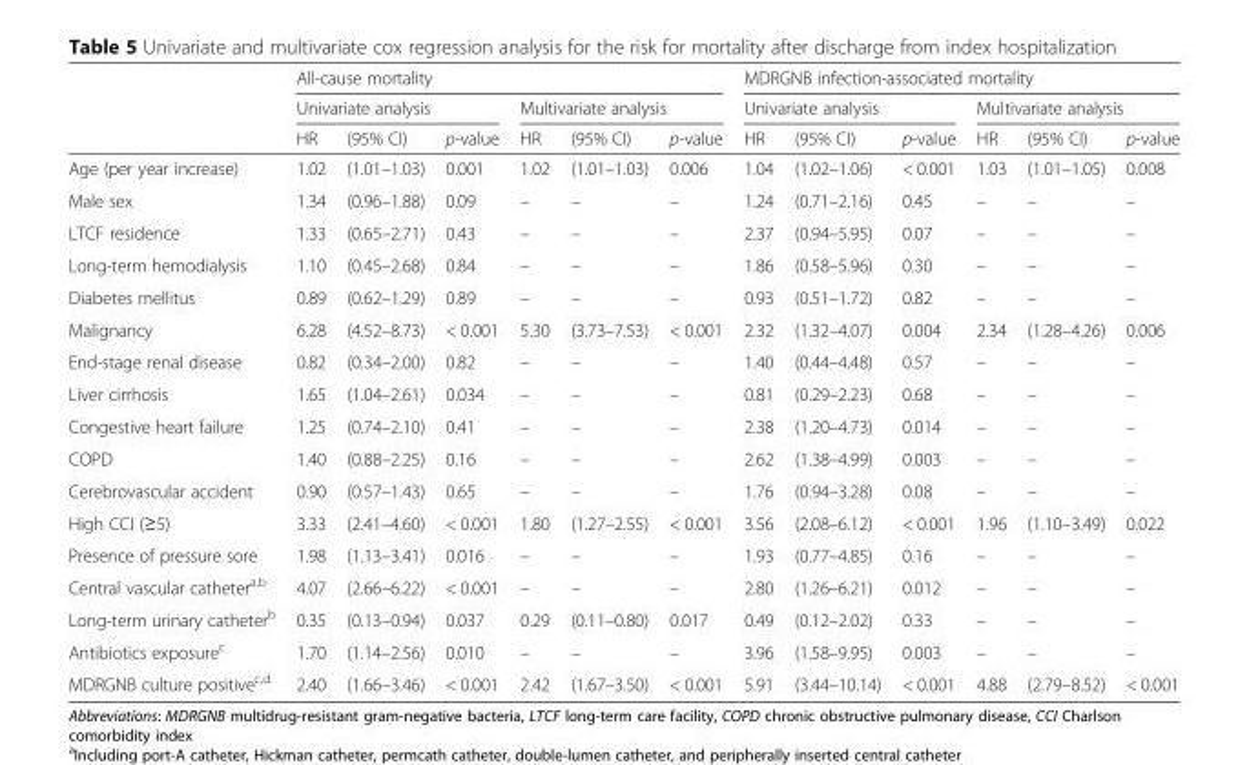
<table><thead><tr><td rowspan="3"></td><td colspan="6">All-cause mortality</td><td colspan="6">MDRGNB infection-associated mortality</td></tr><tr><td colspan="3">Univariate analysis</td><td colspan="3">Multivariate analysis</td><td colspan="3">Univariate analysis</td><td colspan="3">Multivariate analysis</td></tr><tr><td>HR</td><td>(95% CI)</td><td>p-value</td><td>HR</td><td>(95% CI)</td><td>p-value</td><td>HR</td><td>(95% CI)</td><td>p-value</td><td>HR</td><td>(95% CI)</td><td>p-value</td></tr></thead><tbody><tr><td>Age (per year increase)</td><td>1.02</td><td>(1.01–1.03)</td><td>0.001</td><td>1.02</td><td>(1.01–1.03)</td><td>0.006</td><td>1.04</td><td>(1.02–1.06)</td><td>&lt; 0.001</td><td>1.03</td><td>(1.01–1.05)</td><td>0.008</td></tr><tr><td>Male sex</td><td>1.34</td><td>(0.96–1.88)</td><td>0.09</td><td>–</td><td>–</td><td>–</td><td>1.24</td><td>(0.71–2.16)</td><td>0.45</td><td>–</td><td>–</td><td>–</td></tr><tr><td>LTCF residence</td><td>1.33</td><td>(0.65–2.71)</td><td>0.43</td><td>–</td><td>–</td><td>–</td><td>2.37</td><td>(0.94–5.95)</td><td>0.07</td><td>–</td><td>–</td><td>–</td></tr><tr><td>Long-term hemodialysis</td><td>1.10</td><td>(0.45–2.68)</td><td>0.84</td><td>–</td><td>–</td><td>–</td><td>1.86</td><td>(0.58–5.96)</td><td>0.30</td><td>–</td><td>–</td><td>–</td></tr><tr><td>Diabetes mellitus</td><td>0.89</td><td>(0.62–1.29)</td><td>0.89</td><td>–</td><td>–</td><td>–</td><td>0.93</td><td>(0.51–1.72)</td><td>0.82</td><td>–</td><td>–</td><td>–</td></tr><tr><td>Malignancy</td><td>6.28</td><td>(4.52–8.73)</td><td>&lt; 0.001</td><td>5.30</td><td>(3.73–7.53)</td><td>&lt; 0.001</td><td>2.32</td><td>(1.32–4.07)</td><td>0.004</td><td>2.34</td><td>(1.28–4.26)</td><td>0.006</td></tr><tr><td>End-stage renal disease</td><td>0.82</td><td>(0.34–2.00)</td><td>0.82</td><td>–</td><td>–</td><td>–</td><td>1.40</td><td>(0.44–4.48)</td><td>0.57</td><td>–</td><td>–</td><td>–</td></tr><tr><td>Liver cirrhosis</td><td>1.65</td><td>(1.04–2.61)</td><td>0.034</td><td>–</td><td>–</td><td>–</td><td>0.81</td><td>(0.29–2.23)</td><td>0.68</td><td>–</td><td>–</td><td>–</td></tr><tr><td>Congestive heart failure</td><td>1.25</td><td>(0.74–2.10)</td><td>0.41</td><td>–</td><td>–</td><td>–</td><td>2.38</td><td>(1.20–4.73)</td><td>0.014</td><td>–</td><td>–</td><td>–</td></tr><tr><td>COPD</td><td>1.40</td><td>(0.88–2.25)</td><td>0.16</td><td>–</td><td>–</td><td>–</td><td>2.62</td><td>(1.38–4.99)</td><td>0.003</td><td>–</td><td>–</td><td>–</td></tr><tr><td>Cerebrovascular accident</td><td>0.90</td><td>(0.57–1.43)</td><td>0.65</td><td>–</td><td>–</td><td>–</td><td>1.76</td><td>(0.94–3.28)</td><td>0.08</td><td>–</td><td>–</td><td>–</td></tr><tr><td>High CCI (≥5)</td><td>3.33</td><td>(2.41–4.60)</td><td>&lt; 0.001</td><td>1.80</td><td>(1.27–2.55)</td><td>&lt; 0.001</td><td>3.56</td><td>(2.08–6.12)</td><td>&lt; 0.001</td><td>1.96</td><td>(1.10–3.49)</td><td>0.022</td></tr><tr><td>Presence of pressure sore</td><td>1.98</td><td>(1.13–3.41)</td><td>0.016</td><td>–</td><td>–</td><td>–</td><td>1.93</td><td>(0.77–4.85)</td><td>0.16</td><td>–</td><td>–</td><td>–</td></tr><tr><td>Central vascular catheter<sup>a,b</sup></td><td>4.07</td><td>(2.66–6.22)</td><td>&lt; 0.001</td><td>–</td><td>–</td><td>–</td><td>2.80</td><td>(1.26–6.21)</td><td>0.012</td><td>–</td><td>–</td><td>–</td></tr><tr><td>Long-term urinary catheter<sup>b</sup></td><td>0.35</td><td>(0.13–0.94)</td><td>0.037</td><td>0.29</td><td>(0.11–0.80)</td><td>0.017</td><td>0.49</td><td>(0.12–2.02)</td><td>0.33</td><td>–</td><td>–</td><td>–</td></tr><tr><td>Antibiotics exposure<sup>c</sup></td><td>1.70</td><td>(1.14–2.56)</td><td>0.010</td><td>–</td><td>–</td><td>–</td><td>3.96</td><td>(1.58–9.95)</td><td>0.003</td><td>–</td><td>–</td><td>–</td></tr><tr><td>MDRGNB culture positive<sup>c,d</sup></td><td>2.40</td><td>(1.66–3.46)</td><td>&lt; 0.001</td><td>2.42</td><td>(1.67–3.50)</td><td>&lt; 0.001</td><td>5.91</td><td>(3.44–10.14)</td><td>&lt; 0.001</td><td>4.88</td><td>(2.79–8.52)</td><td>&lt; 0.001</td></tr></tbody></table>